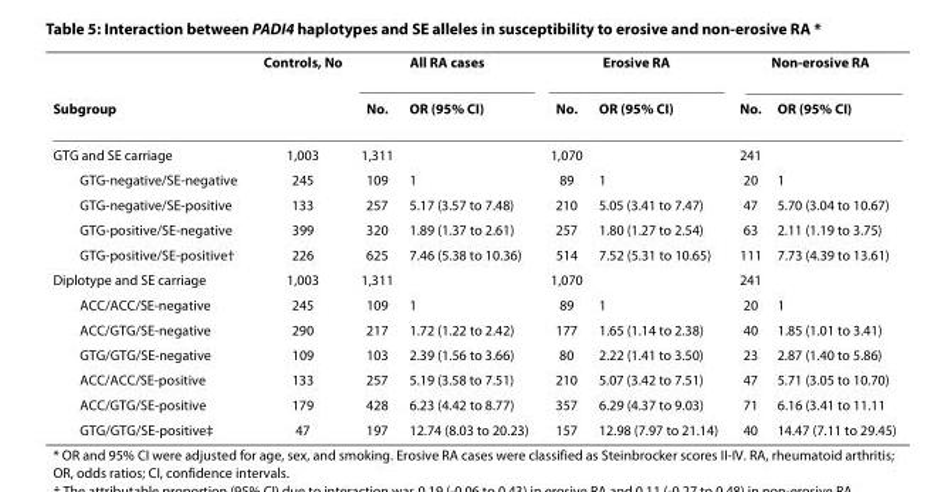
<table><thead><tr><td rowspan="2">Subgroup</td><td rowspan="2">Controls, No</td><td colspan="2">All RA cases</td><td colspan="2">Erosive RA</td><td colspan="2">Non-erosive RA</td></tr><tr><td>No.</td><td>OR (95% CI)</td><td>No.</td><td>OR (95% CI)</td><td>No.</td><td>OR (95% CI)</td></tr></thead><tbody><tr><td>GTG and SE carriage</td><td>1,003</td><td>1,311</td><td></td><td>1,070</td><td></td><td>241</td><td></td></tr><tr><td>GTG-negative/SE-negative</td><td>245</td><td>109</td><td>1</td><td>89</td><td>1</td><td>20</td><td>1</td></tr><tr><td>GTG-negative/SE-positive</td><td>133</td><td>257</td><td>5.17 (3.57 to 7.48)</td><td>210</td><td>5.05 (3.41 to 7.47)</td><td>47</td><td>5.70 (3.04 to 10.67)</td></tr><tr><td>GTG-positive/SE-negative</td><td>399</td><td>320</td><td>1.89 (1.37 to 2.61)</td><td>257</td><td>1.80 (1.27 to 2.54)</td><td>63</td><td>2.11 (1.19 to 3.75)</td></tr><tr><td>GTG-positive/SE-positive†</td><td>226</td><td>625</td><td>7.46 (5.38 to 10.36)</td><td>514</td><td>7.52 (5.31 to 10.65)</td><td>111</td><td>7.73 (4.39 to 13.61)</td></tr><tr><td>Diplotype and SE carriage</td><td>1,003</td><td>1,311</td><td></td><td>1,070</td><td></td><td>241</td><td></td></tr><tr><td>ACC/ACC/SE-negative</td><td>245</td><td>109</td><td>1</td><td>89</td><td>1</td><td>20</td><td>1</td></tr><tr><td>ACC/GTG/SE-negative</td><td>290</td><td>217</td><td>1.72 (1.22 to 2.42)</td><td>177</td><td>1.65 (1.14 to 2.38)</td><td>40</td><td>1.85 (1.01 to 3.41)</td></tr><tr><td>GTG/GTG/SE-negative</td><td>109</td><td>103</td><td>2.39 (1.56 to 3.66)</td><td>80</td><td>2.22 (1.41 to 3.50)</td><td>23</td><td>2.87 (1.40 to 5.86)</td></tr><tr><td>ACC/ACC/SE-positive</td><td>133</td><td>257</td><td>5.19 (3.58 to 7.51)</td><td>210</td><td>5.07 (3.42 to 7.51)</td><td>47</td><td>5.71 (3.05 to 10.70)</td></tr><tr><td>ACC/GTG/SE-positive</td><td>179</td><td>428</td><td>6.23 (4.42 to 8.77)</td><td>357</td><td>6.29 (4.37 to 9.03)</td><td>71</td><td>6.16 (3.41 to 11.11</td></tr><tr><td>GTG/GTG/SE-positive‡</td><td>47</td><td>197</td><td>12.74 (8.03 to 20.23)</td><td>157</td><td>12.98 (7.97 to 21.14)</td><td>40</td><td>14.47 (7.11 to 29.45)</td></tr></tbody></table>